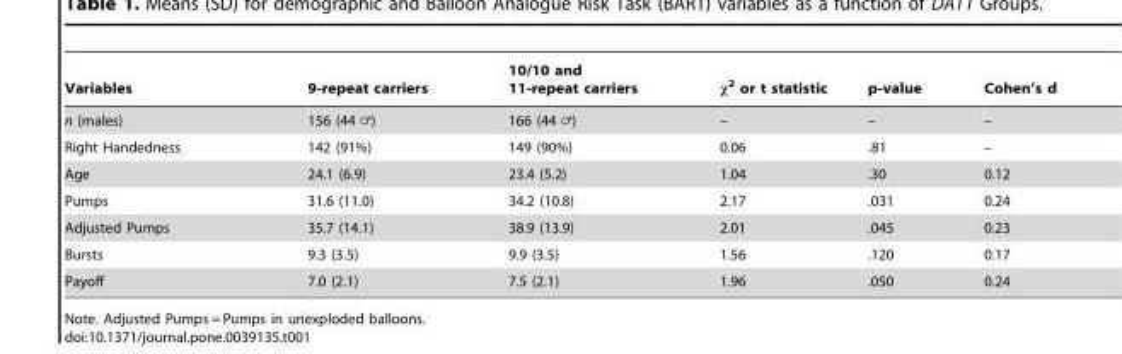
<table><thead><tr><td>Variables</td><td>9-repeat carriers</td><td>10/10 and 11-repeat carriers</td><td>κ<sup>2</sup> or t statistic</td><td>p-value</td><td>Cohen’s d</td></tr></thead><tbody><tr><td>n (males)</td><td>156 (44 =)</td><td>166 (44 =)</td><td>–</td><td>–</td><td>–</td></tr><tr><td>Right Handedness</td><td>142 (91%)</td><td>149 (90%)</td><td>0.06</td><td>.81</td><td>–</td></tr><tr><td>Age</td><td>24.1 (6.9)</td><td>23.4 (5.2)</td><td>1.04</td><td>.30</td><td>0.12</td></tr><tr><td>Pumps</td><td>31.6 (11.0)</td><td>34.2 (10.8)</td><td>2.17</td><td>.031</td><td>0.24</td></tr><tr><td>Adjusted Pumps</td><td>35.7 (14.1)</td><td>38.9 (13.9)</td><td>2.01</td><td>.045</td><td>0.23</td></tr><tr><td>Bursts</td><td>9.3 (3.5)</td><td>9.9 (3.5)</td><td>1.56</td><td>.120</td><td>0.17</td></tr><tr><td>Payoff</td><td>7.0 (2.1)</td><td>7.5 (2.1)</td><td>1.96</td><td>.050</td><td>0.24</td></tr></tbody></table>